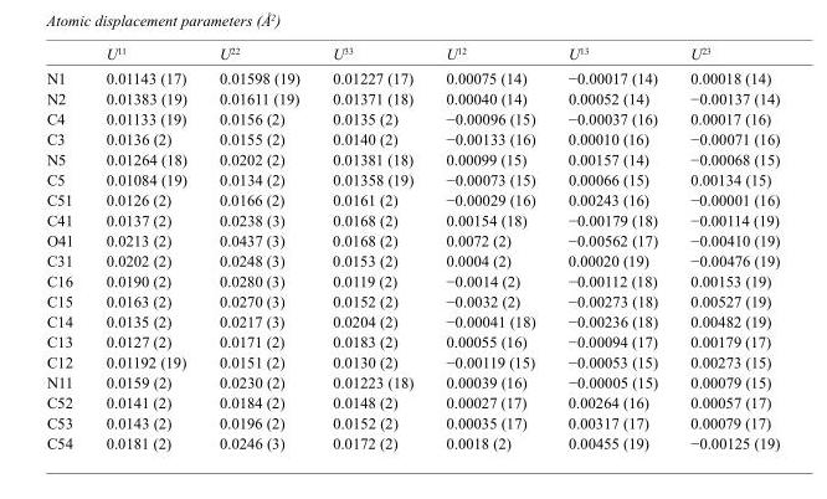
<table><thead><tr><td></td><td>U<sup>11</sup></td><td>U<sup>22</sup></td><td>U<sup>33</sup></td><td>U<sup>12</sup></td><td>U<sup>13</sup></td><td>U<sup>23</sup></td></tr></thead><tbody><tr><td>N1</td><td>0.01143 (17)</td><td>0.01598 (19)</td><td>0.01227 (17)</td><td>0.00075 (14)</td><td>−0.00017 (14)</td><td>0.00018 (14)</td></tr><tr><td>N2</td><td>0.01383 (19)</td><td>0.01611 (19)</td><td>0.01371 (18)</td><td>0.00040 (14)</td><td>0.00052 (14)</td><td>−0.00137 (14)</td></tr><tr><td>C4</td><td>0.01133 (19)</td><td>0.0156 (2)</td><td>0.0135 (2)</td><td>−0.00096 (15)</td><td>−0.00037 (16)</td><td>0.00017 (16)</td></tr><tr><td>C3</td><td>0.0136 (2)</td><td>0.0155 (2)</td><td>0.0140 (2)</td><td>−0.00133 (16)</td><td>0.00010 (16)</td><td>−0.00071 (16)</td></tr><tr><td>N5</td><td>0.01264 (18)</td><td>0.0202 (2)</td><td>0.01381 (18)</td><td>0.00099 (15)</td><td>0.00157 (14)</td><td>−0.00068 (15)</td></tr><tr><td>C5</td><td>0.01084 (19)</td><td>0.0134 (2)</td><td>0.01358 (19)</td><td>−0.00073 (15)</td><td>0.00066 (15)</td><td>0.00134 (15)</td></tr><tr><td>C51</td><td>0.0126 (2)</td><td>0.0166 (2)</td><td>0.0161 (2)</td><td>−0.00029 (16)</td><td>0.00243 (16)</td><td>−0.00001 (16)</td></tr><tr><td>C41</td><td>0.0137 (2)</td><td>0.0238 (3)</td><td>0.0168 (2)</td><td>0.00154 (18)</td><td>−0.00179 (18)</td><td>−0.00114 (19)</td></tr><tr><td>O41</td><td>0.0213 (2)</td><td>0.0437 (3)</td><td>0.0168 (2)</td><td>0.0072 (2)</td><td>−0.00562 (17)</td><td>−0.00410 (19)</td></tr><tr><td>C31</td><td>0.0202 (2)</td><td>0.0248 (3)</td><td>0.0153 (2)</td><td>0.0004 (2)</td><td>0.00020 (19)</td><td>−0.00476 (19)</td></tr><tr><td>C16</td><td>0.0190 (2)</td><td>0.0280 (3)</td><td>0.0119 (2)</td><td>−0.0014 (2)</td><td>−0.00112 (18)</td><td>0.00153 (19)</td></tr><tr><td>C15</td><td>0.0163 (2)</td><td>0.0270 (3)</td><td>0.0152 (2)</td><td>−0.0032 (2)</td><td>−0.00273 (18)</td><td>0.00527 (19)</td></tr><tr><td>C14</td><td>0.0135 (2)</td><td>0.0217 (3)</td><td>0.0204 (2)</td><td>−0.00041 (18)</td><td>−0.00236 (18)</td><td>0.00482 (19)</td></tr><tr><td>C13</td><td>0.0127 (2)</td><td>0.0171 (2)</td><td>0.0183 (2)</td><td>0.00055 (16)</td><td>−0.00094 (17)</td><td>0.00179 (17)</td></tr><tr><td>C12</td><td>0.01192 (19)</td><td>0.0151 (2)</td><td>0.0130 (2)</td><td>−0.00119 (15)</td><td>−0.00053 (15)</td><td>0.00273 (15)</td></tr><tr><td>N11</td><td>0.0159 (2)</td><td>0.0230 (2)</td><td>0.01223 (18)</td><td>0.00039 (16)</td><td>−0.00005 (15)</td><td>0.00079 (15)</td></tr><tr><td>C52</td><td>0.0141 (2)</td><td>0.0184 (2)</td><td>0.0148 (2)</td><td>0.00027 (17)</td><td>0.00264 (16)</td><td>0.00057 (17)</td></tr><tr><td>C53</td><td>0.0143 (2)</td><td>0.0196 (2)</td><td>0.0152 (2)</td><td>0.00035 (17)</td><td>0.00317 (17)</td><td>0.00079 (17)</td></tr><tr><td>C54</td><td>0.0181 (2)</td><td>0.0246 (3)</td><td>0.0172 (2)</td><td>0.0018 (2)</td><td>0.00455 (19)</td><td>−0.00125 (19)</td></tr></tbody></table>